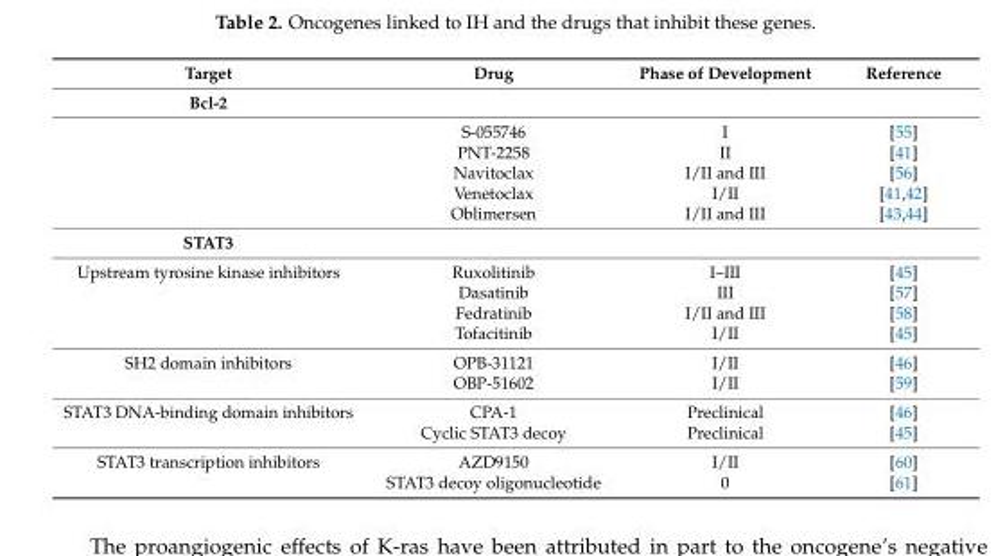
<table><thead><tr><td>Target</td><td>Drug</td><td>Phase of Development</td><td>Reference</td></tr></thead><tbody><tr><td colspan="4">Bcl-2</td></tr><tr><td></td><td>S-055746</td><td>I</td><td>[55]</td></tr><tr><td></td><td>PNT-2258</td><td>II</td><td>[41]</td></tr><tr><td></td><td>Navitoclax</td><td>I/II and III</td><td>[56]</td></tr><tr><td></td><td>Venetoclax</td><td>I/II</td><td>[41,42]</td></tr><tr><td></td><td>Oblimersen</td><td>I/II and III</td><td>[43,44]</td></tr><tr><td colspan="4">STAT3</td></tr><tr><td rowspan="4">Upstream tyrosine kinase inhibitors</td><td>Ruxolitinib</td><td>I–III</td><td>[45]</td></tr><tr><td>Dasatinib</td><td>III</td><td>[57]</td></tr><tr><td>Fedratinib</td><td>I/II and III</td><td>[58]</td></tr><tr><td>Tofacitinib</td><td>I/II</td><td>[45]</td></tr><tr><td rowspan="2">SH2 domain inhibitors</td><td>OPB-31121</td><td>I/II</td><td>[46]</td></tr><tr><td>OBP-51602</td><td>I/II</td><td>[59]</td></tr><tr><td rowspan="2">STAT3 DNA-binding domain inhibitors</td><td>CPA-1</td><td>Preclinical</td><td>[46]</td></tr><tr><td>Cyclic STAT3 decoy</td><td>Preclinical</td><td>[45]</td></tr><tr><td rowspan="2">STAT3 transcription inhibitors</td><td>AZD9150</td><td>I/II</td><td>[60]</td></tr><tr><td>STAT3 decoy oligonucleotide</td><td>0</td><td>[61]</td></tr></tbody></table>